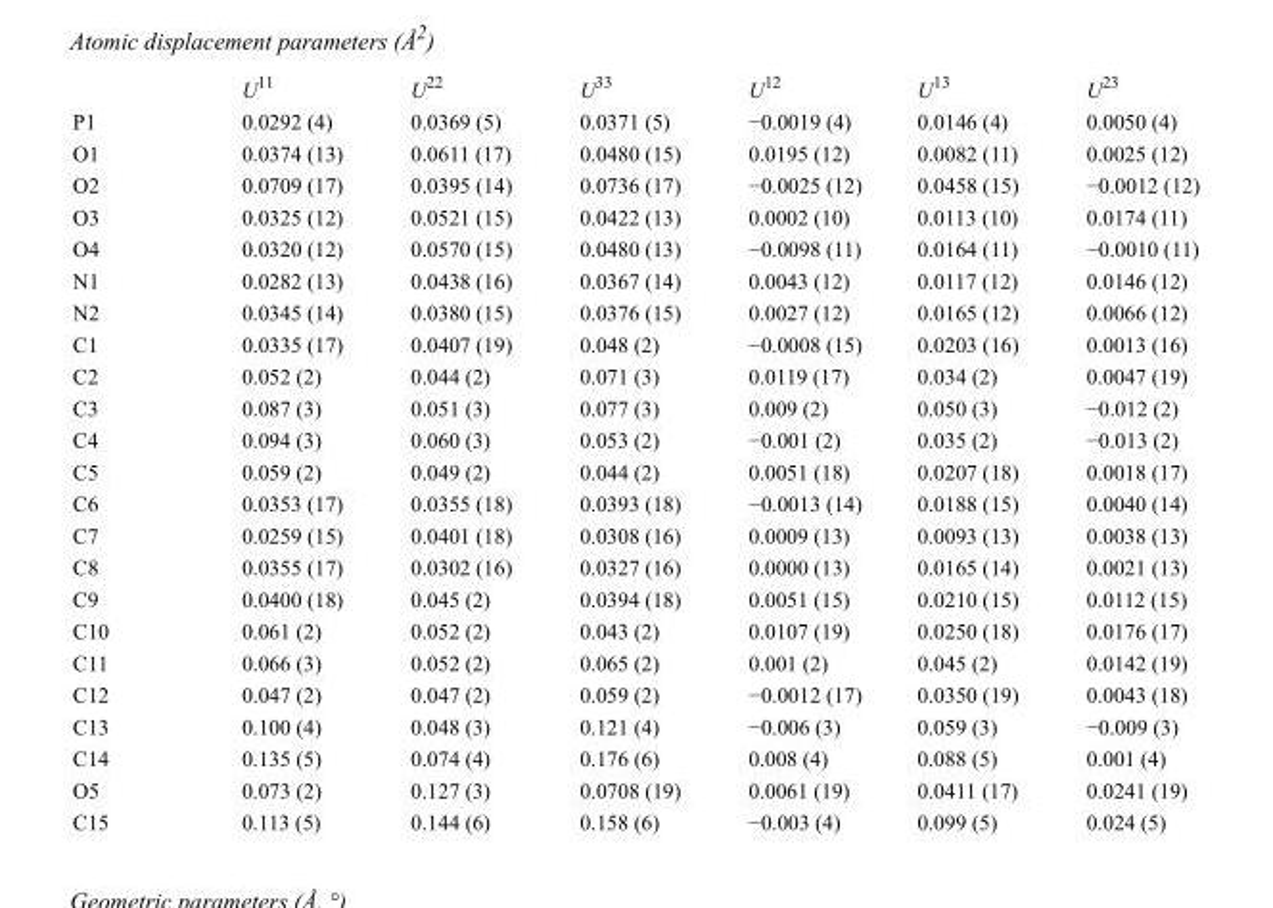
<table><thead><tr><td></td><td>U<sup>11</sup></td><td>U<sup>22</sup></td><td>U<sup>33</sup></td><td>U<sup>12</sup></td><td>U<sup>13</sup></td><td>U<sup>23</sup></td></tr></thead><tbody><tr><td>P1</td><td>0.0292 (4)</td><td>0.0369 (5)</td><td>0.0371 (5)</td><td>−0.0019 (4)</td><td>0.0146 (4)</td><td>0.0050 (4)</td></tr><tr><td>O1</td><td>0.0374 (13)</td><td>0.0611 (17)</td><td>0.0480 (15)</td><td>0.0195 (12)</td><td>0.0082 (11)</td><td>0.0025 (12)</td></tr><tr><td>O2</td><td>0.0709 (17)</td><td>0.0395 (14)</td><td>0.0736 (17)</td><td>−0.0025 (12)</td><td>0.0458 (15)</td><td>−0.0012 (12)</td></tr><tr><td>O3</td><td>0.0325 (12)</td><td>0.0521 (15)</td><td>0.0422 (13)</td><td>0.0002 (10)</td><td>0.0113 (10)</td><td>0.0174 (11)</td></tr><tr><td>O4</td><td>0.0320 (12)</td><td>0.0570 (15)</td><td>0.0480 (13)</td><td>−0.0098 (11)</td><td>0.0164 (11)</td><td>−0.0010 (11)</td></tr><tr><td>N1</td><td>0.0282 (13)</td><td>0.0438 (16)</td><td>0.0367 (14)</td><td>0.0043 (12)</td><td>0.0117 (12)</td><td>0.0146 (12)</td></tr><tr><td>N2</td><td>0.0345 (14)</td><td>0.0380 (15)</td><td>0.0376 (15)</td><td>0.0027 (12)</td><td>0.0165 (12)</td><td>0.0066 (12)</td></tr><tr><td>C1</td><td>0.0335 (17)</td><td>0.0407 (19)</td><td>0.048 (2)</td><td>−0.0008 (15)</td><td>0.0203 (16)</td><td>0.0013 (16)</td></tr><tr><td>C2</td><td>0.052 (2)</td><td>0.044 (2)</td><td>0.071 (3)</td><td>0.0119 (17)</td><td>0.034 (2)</td><td>0.0047 (19)</td></tr><tr><td>C3</td><td>0.087 (3)</td><td>0.051 (3)</td><td>0.077 (3)</td><td>0.009 (2)</td><td>0.050 (3)</td><td>−0.012 (2)</td></tr><tr><td>C4</td><td>0.094 (3)</td><td>0.060 (3)</td><td>0.053 (2)</td><td>−0.001 (2)</td><td>0.035 (2)</td><td>−0.013 (2)</td></tr><tr><td>C5</td><td>0.059 (2)</td><td>0.049 (2)</td><td>0.044 (2)</td><td>0.0051 (18)</td><td>0.0207 (18)</td><td>0.0018 (17)</td></tr><tr><td>C6</td><td>0.0353 (17)</td><td>0.0355 (18)</td><td>0.0393 (18)</td><td>−0.0013 (14)</td><td>0.0188 (15)</td><td>0.0040 (14)</td></tr><tr><td>C7</td><td>0.0259 (15)</td><td>0.0401 (18)</td><td>0.0308 (16)</td><td>0.0009 (13)</td><td>0.0093 (13)</td><td>0.0038 (13)</td></tr><tr><td>C8</td><td>0.0355 (17)</td><td>0.0302 (16)</td><td>0.0327 (16)</td><td>0.0000 (13)</td><td>0.0165 (14)</td><td>0.0021 (13)</td></tr><tr><td>C9</td><td>0.0400 (18)</td><td>0.045 (2)</td><td>0.0394 (18)</td><td>0.0051 (15)</td><td>0.0210 (15)</td><td>0.0112 (15)</td></tr><tr><td>C10</td><td>0.061 (2)</td><td>0.052 (2)</td><td>0.043 (2)</td><td>0.0107 (19)</td><td>0.0250 (18)</td><td>0.0176 (17)</td></tr><tr><td>C11</td><td>0.066 (3)</td><td>0.052 (2)</td><td>0.065 (2)</td><td>0.001 (2)</td><td>0.045 (2)</td><td>0.0142 (19)</td></tr><tr><td>C12</td><td>0.047 (2)</td><td>0.047 (2)</td><td>0.059 (2)</td><td>−0.0012 (17)</td><td>0.0350 (19)</td><td>0.0043 (18)</td></tr><tr><td>C13</td><td>0.100 (4)</td><td>0.048 (3)</td><td>0.121 (4)</td><td>−0.006 (3)</td><td>0.059 (3)</td><td>−0.009 (3)</td></tr><tr><td>C14</td><td>0.135 (5)</td><td>0.074 (4)</td><td>0.176 (6)</td><td>0.008 (4)</td><td>0.088 (5)</td><td>0.001 (4)</td></tr><tr><td>O5</td><td>0.073 (2)</td><td>0.127 (3)</td><td>0.0708 (19)</td><td>0.0061 (19)</td><td>0.0411 (17)</td><td>0.0241 (19)</td></tr><tr><td>C15</td><td>0.113 (5)</td><td>0.144 (6)</td><td>0.158 (6)</td><td>−0.003 (4)</td><td>0.099 (5)</td><td>0.024 (5)</td></tr></tbody></table>